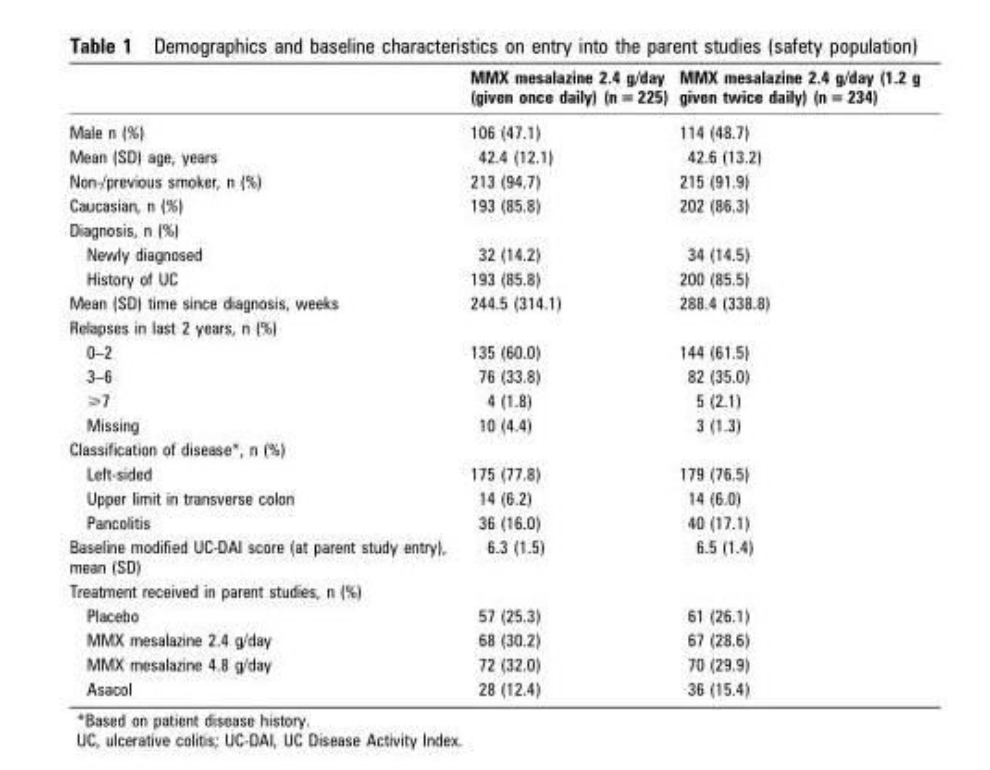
<table><thead><tr><td></td><td>MMX mesalazine 2.4 g/day (given once daily) (n = 225)</td><td>MMX mesalazine 2.4 g/day (1.2 g given twice daily) (n = 234)</td></tr></thead><tbody><tr><td>Male n (%)</td><td>106 (47.1)</td><td>114 (48.7)</td></tr><tr><td>Mean (SD) age, years</td><td>42.4 (12.1)</td><td>42.6 (13.2)</td></tr><tr><td>Non-/previous smoker, n (%)</td><td>213 (94.7)</td><td>215 (91.9)</td></tr><tr><td>Caucasian, n (%)</td><td>193 (85.8)</td><td>202 (86.3)</td></tr><tr><td colspan="3">Diagnosis, n (%)</td></tr><tr><td>Newly diagnosed</td><td>32 (14.2)</td><td>34 (14.5)</td></tr><tr><td>History of UC</td><td>193 (85.8)</td><td>200 (85.5)</td></tr><tr><td>Mean (SD) time since diagnosis, weeks</td><td>244.5 (314.1)</td><td>288.4 (338.8)</td></tr><tr><td colspan="3">Relapses in last 2 years, n (%)</td></tr><tr><td>0–2</td><td>135 (60.0)</td><td>144 (61.5)</td></tr><tr><td>3–6</td><td>76 (33.8)</td><td>82 (35.0)</td></tr><tr><td>&gt;7</td><td>4 (1.8)</td><td>5 (2.1)</td></tr><tr><td>Missing</td><td>10 (4.4)</td><td>3 (1.3)</td></tr><tr><td colspan="3">Classification of disease*, n (%)</td></tr><tr><td>Left-sided</td><td>175 (77.8)</td><td>179 (76.5)</td></tr><tr><td>Upper limit in transverse colon</td><td>14 (6.2)</td><td>14 (6.0)</td></tr><tr><td>Pancolitis</td><td>36 (16.0)</td><td>40 (17.1)</td></tr><tr><td>Baseline modified UC-DAI score (at parent study entry), mean (SD)</td><td>6.3 (1.5)</td><td>6.5 (1.4)</td></tr><tr><td colspan="3">Treatment received in parent studies, n (%)</td></tr><tr><td>Placebo</td><td>57 (25.3)</td><td>61 (26.1)</td></tr><tr><td>MMX mesalazine 2.4 g/day</td><td>68 (30.2)</td><td>67 (28.6)</td></tr><tr><td>MMX mesalazine 4.8 g/day</td><td>72 (32.0)</td><td>70 (29.9)</td></tr><tr><td>Asacol</td><td>28 (12.4)</td><td>36 (15.4)</td></tr></tbody></table>